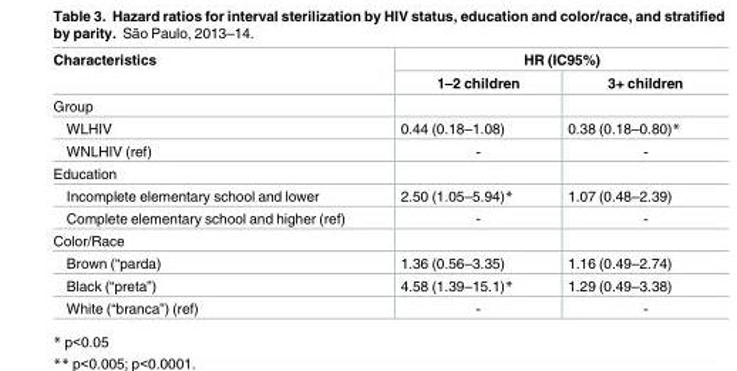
<table><thead><tr><td rowspan="2">Characteristics</td><td colspan="2">HR (IC95%)</td></tr><tr><td>1–2 children</td><td>3+ children</td></tr></thead><tbody><tr><td colspan="3">Group</td></tr><tr><td>WLHIV</td><td>0.44 (0.18–1.08)</td><td>0.38 (0.18–0.80)*</td></tr><tr><td>WNLHIV (ref)</td><td>-</td><td>-</td></tr><tr><td colspan="3">Education</td></tr><tr><td>Incomplete elementary school and lower</td><td>2.50 (1.05–5.94)*</td><td>1.07 (0.48–2.39)</td></tr><tr><td>Complete elementary school and higher (ref)</td><td>-</td><td>-</td></tr><tr><td colspan="3">Color/Race</td></tr><tr><td>Brown (“parda)</td><td>1.36 (0.56–3.35)</td><td>1.16 (0.49–2.74)</td></tr><tr><td>Black (“preta”)</td><td>4.58 (1.39–15.1)*</td><td>1.29 (0.49–3.38)</td></tr><tr><td>White (“branca”) (ref)</td><td>-</td><td>-</td></tr></tbody></table>